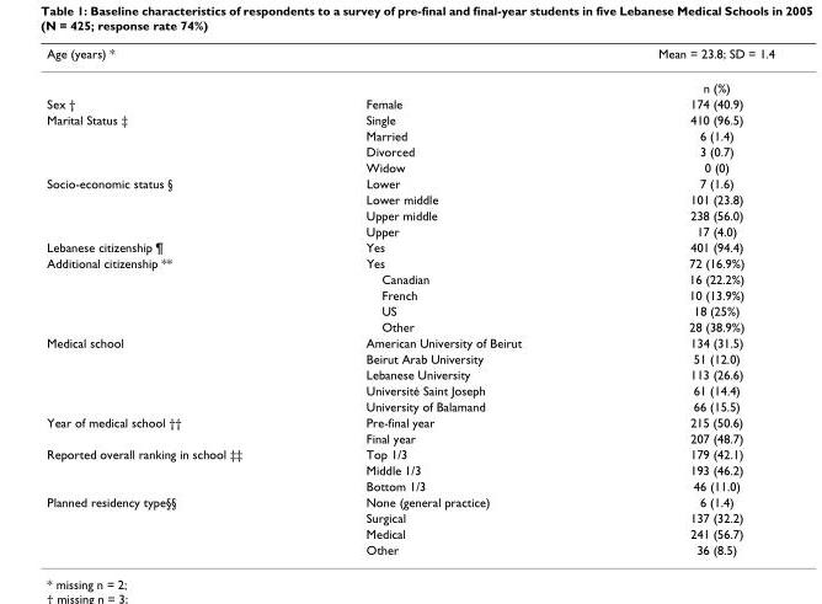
<table><thead><tr><td>Age (years) *</td><td></td><td>Mean = 23.8; SD = 1.4</td></tr></thead><tbody><tr><td></td><td></td><td>n (%)</td></tr><tr><td>Sex †</td><td>Female</td><td>174 (40.9)</td></tr><tr><td rowspan="4">Marital Status ‡</td><td>Single</td><td>410 (96.5)</td></tr><tr><td>Married</td><td>6 (1.4)</td></tr><tr><td>Divorced</td><td>3 (0.7)</td></tr><tr><td>Widow</td><td>0 (0)</td></tr><tr><td rowspan="4">Socio-economic status §</td><td>Lower</td><td>7 (1.6)</td></tr><tr><td>Lower middle</td><td>101 (23.8)</td></tr><tr><td>Upper middle</td><td>238 (56.0)</td></tr><tr><td>Upper</td><td>17 (4.0)</td></tr><tr><td>Lebanese citizenship ¶</td><td>Yes</td><td>401 (94.4)</td></tr><tr><td rowspan="5">Additional citizenship **</td><td>Yes</td><td>72 (16.9%)</td></tr><tr><td>Canadian</td><td>16 (22.2%)</td></tr><tr><td>French</td><td>10 (13.9%)</td></tr><tr><td>US</td><td>18 (25%)</td></tr><tr><td>Other</td><td>28 (38.9%)</td></tr><tr><td rowspan="5">Medical school</td><td>American University of Beirut</td><td>134 (31.5)</td></tr><tr><td>Beirut Arab University</td><td>51 (12.0)</td></tr><tr><td>Lebanese University</td><td>113 (26.6)</td></tr><tr><td>Université Saint Joseph</td><td>61 (14.4)</td></tr><tr><td>University of Balamand</td><td>66 (15.5)</td></tr><tr><td rowspan="2">Year of medical school ††</td><td>Pre-final year</td><td>215 (50.6)</td></tr><tr><td>Final year</td><td>207 (48.7)</td></tr><tr><td rowspan="3">Reported overall ranking in school ‡‡</td><td>Top 1/3</td><td>179 (42.1)</td></tr><tr><td>Middle 1/3</td><td>193 (46.2)</td></tr><tr><td>Bottom 1/3</td><td>46 (11.0)</td></tr><tr><td rowspan="4">Planned residency type§§</td><td>None (general practice)</td><td>6 (1.4)</td></tr><tr><td>Surgical</td><td>137 (32.2)</td></tr><tr><td>Medical</td><td>241 (56.7)</td></tr><tr><td>Other</td><td>36 (8.5)</td></tr></tbody></table>